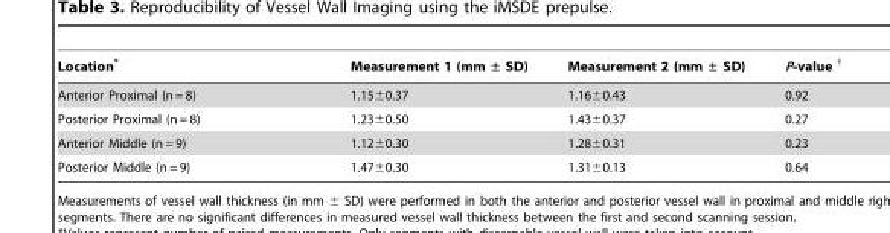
<table><thead><tr><td>Location*</td><td>Measurement 1 (mm ± SD)</td><td>Measurement 2 (mm ± SD)</td><td>P-value</td></tr></thead><tbody><tr><td>Anterior Proximal (n = 8)</td><td>1.15±0.37</td><td>1.16±0.43</td><td>0.92</td></tr><tr><td>Posterior Proximal (n = 8)</td><td>1.23±0.50</td><td>1.43±0.37</td><td>0.27</td></tr><tr><td>Anterior Middle (n = 9)</td><td>1.12±0.30</td><td>1.28±0.31</td><td>0.23</td></tr><tr><td>Posterior Middle (n = 9)</td><td>1.47±0.30</td><td>1.31±0.13</td><td>0.64</td></tr></tbody></table>